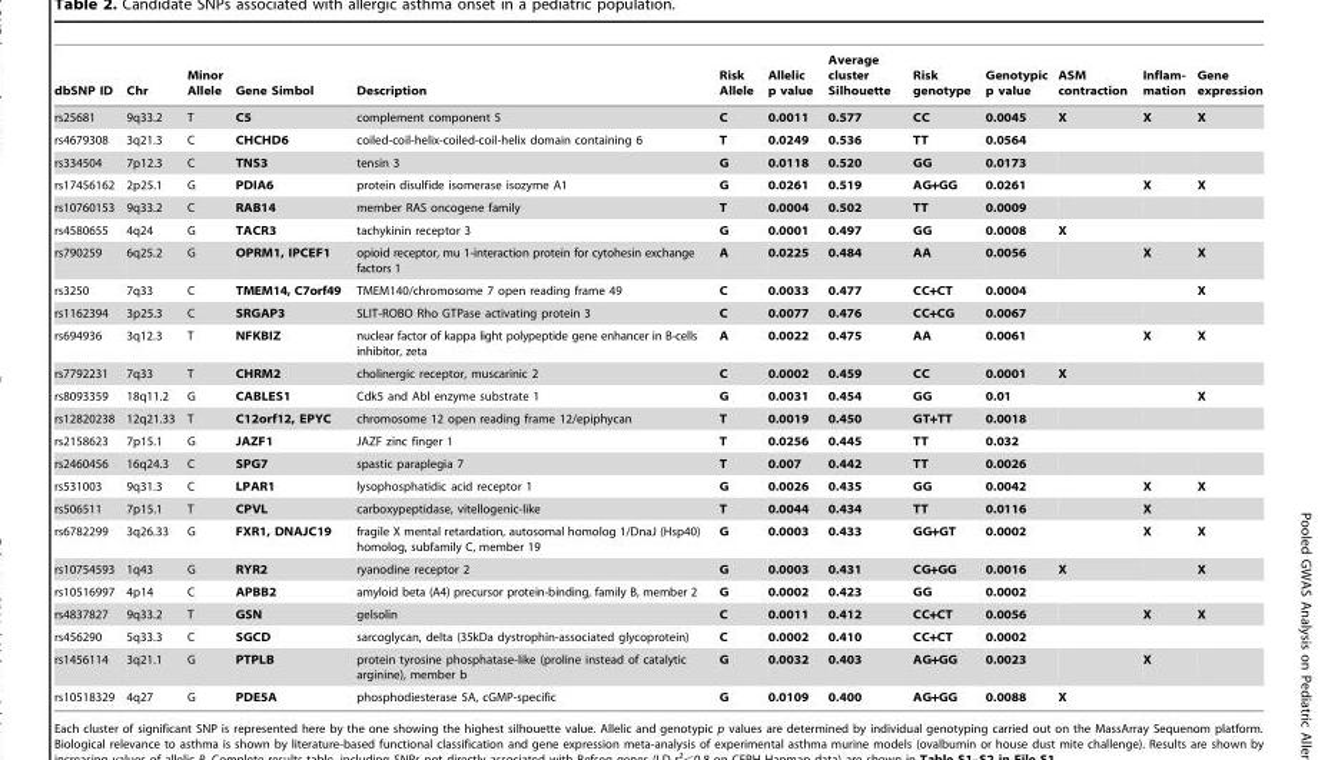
<table><thead><tr><td>dbSNP ID</td><td>Chr</td><td>Minor Allele</td><td>Gene Simbol</td><td>Description</td><td>Risk Allele</td><td>Allelic p value</td><td>Average cluster Silhouette</td><td>Risk genotype</td><td>Genotypic p value</td><td>ASM contraction</td><td>Inflam- mation</td><td>Gene expression</td></tr></thead><tbody><tr><td>rs25681</td><td>9q33.2</td><td>T</td><td>C5</td><td>complement component 5</td><td>C</td><td>0.0011</td><td>0.577</td><td>CC</td><td>0.0045</td><td>X</td><td>X</td><td>X</td></tr><tr><td>rs4679308</td><td>3q21.3</td><td>C</td><td>CHCHD6</td><td>coiled-coil-helix-coiled-coil-helix domain containing 6</td><td>T</td><td>0.0249</td><td>0.536</td><td>TT</td><td>0.0564</td><td></td><td></td><td></td></tr><tr><td>rs334504</td><td>7p12.3</td><td>C</td><td>TNS3</td><td>tensin 3</td><td>G</td><td>0.0118</td><td>0.520</td><td>GG</td><td>0.0173</td><td></td><td></td><td></td></tr><tr><td>rs17456162</td><td>2p25.1</td><td>G</td><td>PDIA6</td><td>protein disulfide isomerase isozyme A1</td><td>G</td><td>0.0261</td><td>0.519</td><td>AG+GG</td><td>0.0261</td><td></td><td>X</td><td>X</td></tr><tr><td>rs10760153</td><td>9q33.2</td><td>C</td><td>RAB14</td><td>member RAS oncogene family</td><td>T</td><td>0.0004</td><td>0.502</td><td>TT</td><td>0.0009</td><td></td><td></td><td></td></tr><tr><td>rs4580655</td><td>4q24</td><td>G</td><td>TACR3</td><td>tachykinin receptor 3</td><td>G</td><td>0.0001</td><td>0.497</td><td>GG</td><td>0.0008</td><td>X</td><td></td><td></td></tr><tr><td>rs790259</td><td>6q25.2</td><td>G</td><td>OPRM1, IPCEF1</td><td>opioid receptor, mu 1-interaction protein for cytohesin exchange factors 1</td><td>A</td><td>0.0225</td><td>0.484</td><td>AA</td><td>0.0056</td><td></td><td>X</td><td>X</td></tr><tr><td>rs3250</td><td>7q33</td><td>C</td><td>TMEM14, C7orf49</td><td>TMEM140/chromosome 7 open reading frame 49</td><td>C</td><td>0.0033</td><td>0.477</td><td>CC+CT</td><td>0.0004</td><td></td><td></td><td>X</td></tr><tr><td>rs1162394</td><td>3p25.3</td><td>C</td><td>SRGAP3</td><td>SLIT-ROBO Rho GTPase activating protein 3</td><td>C</td><td>0.0077</td><td>0.476</td><td>CC+CG</td><td>0.0067</td><td></td><td></td><td></td></tr><tr><td>rs694936</td><td>3q12.3</td><td>T</td><td>NFKBIZ</td><td>nuclear factor of kappa light polypeptide gene enhancer in B-cells inhibitor, zeta</td><td>A</td><td>0.0022</td><td>0.475</td><td>AA</td><td>0.0061</td><td></td><td>X</td><td>X</td></tr><tr><td>rs7792231</td><td>7q33</td><td>T</td><td>CHRM2</td><td>cholinergic receptor, muscarinic 2</td><td>C</td><td>0.0002</td><td>0.459</td><td>CC</td><td>0.0001</td><td>X</td><td></td><td></td></tr><tr><td>rs8093359</td><td>18q11.2</td><td>G</td><td>CABLES1</td><td>Cdk5 and Abl enzyme substrate 1</td><td>G</td><td>0.0031</td><td>0.454</td><td>GG</td><td>0.01</td><td></td><td></td><td>X</td></tr><tr><td>rs12820238</td><td>12q21.33</td><td>T</td><td>C12orf12, EPYC</td><td>chromosome 12 open reading frame 12/epiphycan</td><td>T</td><td>0.0019</td><td>0.450</td><td>GT+TT</td><td>0.0018</td><td></td><td></td><td></td></tr><tr><td>rs2158623</td><td>7p15.1</td><td>G</td><td>JAZF1</td><td>JAZF zinc finger 1</td><td>T</td><td>0.0256</td><td>0.445</td><td>TT</td><td>0.032</td><td></td><td></td><td></td></tr><tr><td>rs2460456</td><td>16q24.3</td><td>C</td><td>SPG7</td><td>spastic paraplegia 7</td><td>T</td><td>0.007</td><td>0.442</td><td>TT</td><td>0.0026</td><td></td><td></td><td></td></tr><tr><td>rs531003</td><td>9q31.3</td><td>C</td><td>LPAR1</td><td>lysophosphatidic acid receptor 1</td><td>G</td><td>0.0026</td><td>0.435</td><td>GG</td><td>0.0042</td><td></td><td>X</td><td>X</td></tr><tr><td>rs506511</td><td>7p15.1</td><td>T</td><td>CPVL</td><td>carboxypeptidase, vitellogenic-like</td><td>T</td><td>0.0044</td><td>0.434</td><td>TT</td><td>0.0116</td><td></td><td>X</td><td></td></tr><tr><td>rs6782299</td><td>3q26.33</td><td>G</td><td>FXR1, DNAJC19</td><td>fragile X mental retardation, autosomal homolog 1/DnaJ (Hsp40) homolog, subfamily C, member 19</td><td>G</td><td>0.0003</td><td>0.433</td><td>GG+GT</td><td>0.0002</td><td></td><td>X</td><td>X</td></tr><tr><td>rs10754593</td><td>1q43</td><td>G</td><td>RYR2</td><td>ryanodine receptor 2</td><td>G</td><td>0.0003</td><td>0.431</td><td>CG+GG</td><td>0.0016</td><td>X</td><td></td><td>X</td></tr><tr><td>rs10516997</td><td>4p14</td><td>C</td><td>APBB2</td><td>amyloid beta (A4) precursor protein-binding, family B, member 2</td><td>G</td><td>0.0002</td><td>0.423</td><td>GG</td><td>0.0002</td><td></td><td></td><td></td></tr><tr><td>rs4837827</td><td>9q33.2</td><td>T</td><td>GSN</td><td>gelsolin</td><td>C</td><td>0.0011</td><td>0.412</td><td>CC+CT</td><td>0.0056</td><td></td><td>X</td><td>X</td></tr><tr><td>rs456290</td><td>5q33.3</td><td>C</td><td>SGCD</td><td>sarcoglycan, delta (35kDa dystrophin-associated glycoprotein)</td><td>C</td><td>0.0002</td><td>0.410</td><td>CC+CT</td><td>0.0002</td><td></td><td></td><td></td></tr><tr><td>rs1456114</td><td>3q21.1</td><td>G</td><td>PTPLB</td><td>protein tyrosine phosphatase-like (proline instead of catalytic arginine), member b</td><td>G</td><td>0.0032</td><td>0.403</td><td>AG+GG</td><td>0.0023</td><td></td><td>X</td><td></td></tr><tr><td>rs10518329</td><td>4q27</td><td>G</td><td>PDE5A</td><td>phosphodiesterase 5A, cGMP-specific</td><td>G</td><td>0.0109</td><td>0.400</td><td>AG+GG</td><td>0.0088</td><td>X</td><td></td><td></td></tr></tbody></table>